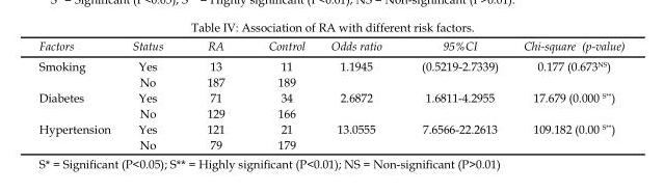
<table><thead><tr><td>Factors</td><td>Status</td><td>RA</td><td>Control</td><td>Odds ratio</td><td>95%CI</td><td>Chi-square (p-value)</td></tr></thead><tbody><tr><td rowspan="2">Smoking</td><td>Yes</td><td>13</td><td>11</td><td rowspan="2">1.1945</td><td rowspan="2">(0.5219-2.7339)</td><td rowspan="2">0.177 (0.673<sup>NS</sup>)</td></tr><tr><td>No</td><td>187</td><td>189</td></tr><tr><td rowspan="2">Diabetes</td><td>Yes</td><td>71</td><td>34</td><td rowspan="2">2.6872</td><td rowspan="2">1.6811-4.2955</td><td rowspan="2">17.679 (0.000 <sup>S**</sup>)</td></tr><tr><td>No</td><td>129</td><td>166</td></tr><tr><td rowspan="2">Hypertension</td><td>Yes</td><td>121</td><td>21</td><td rowspan="2">13.0555</td><td rowspan="2">7.6566-22.2613</td><td rowspan="2">109.182 (0.00 <sup>S**</sup>)</td></tr><tr><td>No</td><td>79</td><td>179</td></tr></tbody></table>